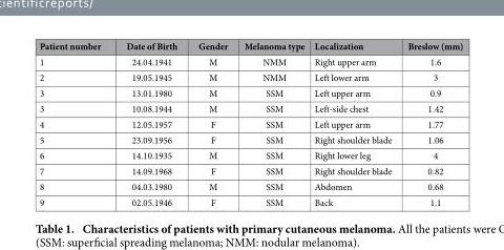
<table><thead><tr><td>Patient number</td><td>Date of Birth</td><td>Gender</td><td>Melanoma type</td><td>Localization</td><td>Breslow (mm)</td></tr></thead><tbody><tr><td>1</td><td>24.04.1941</td><td>M</td><td>NMM</td><td>Right upper arm</td><td>1.6</td></tr><tr><td>2</td><td>19.05.1945</td><td>M</td><td>NMM</td><td>Left lower arm</td><td>3</td></tr><tr><td>3</td><td>13.01.1980</td><td>M</td><td>SSM</td><td>Left upper arm</td><td>0.9</td></tr><tr><td>3</td><td>10.08.1944</td><td>M</td><td>SSM</td><td>Left-side chest</td><td>1.42</td></tr><tr><td>4</td><td>12.05.1957</td><td>F</td><td>SSM</td><td>Left upper arm</td><td>1.77</td></tr><tr><td>5</td><td>23.09.1956</td><td>F</td><td>SSM</td><td>Right shoulder blade</td><td>1.06</td></tr><tr><td>6</td><td>14.10.1935</td><td>M</td><td>SSM</td><td>Right lower leg</td><td>4</td></tr><tr><td>7</td><td>14.09.1968</td><td>F</td><td>SSM</td><td>Right shoulder blade</td><td>0.82</td></tr><tr><td>8</td><td>04.03.1980</td><td>M</td><td>SSM</td><td>Abdomen</td><td>0.68</td></tr><tr><td>9</td><td>02.05.1946</td><td>F</td><td>SSM</td><td>Back</td><td>1.1</td></tr></tbody></table>